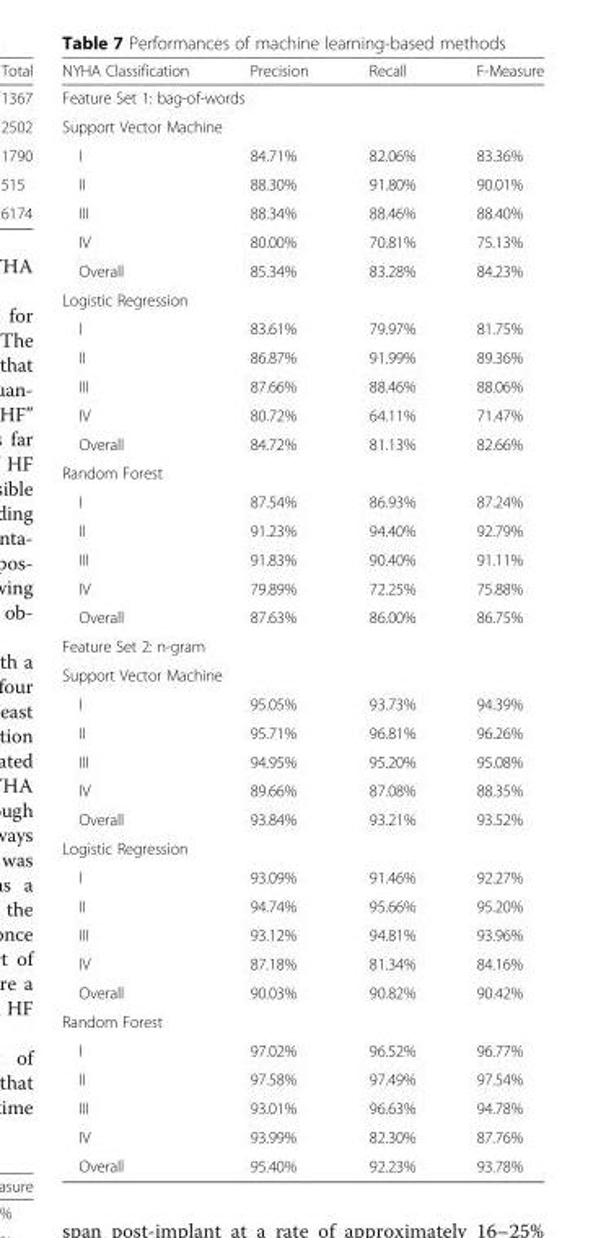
<table><thead><tr><td>NYHA Classification</td><td>Precision</td><td>Recall</td><td>F-Measure</td></tr></thead><tbody><tr><td colspan="4">Feature Set 1: bag-of-words</td></tr><tr><td colspan="4">Support Vector Machine</td></tr><tr><td>I</td><td>84.71%</td><td>82.06%</td><td>83.36%</td></tr><tr><td>II</td><td>88.30%</td><td>91.80%</td><td>90.01%</td></tr><tr><td>III</td><td>88.34%</td><td>88.46%</td><td>88.40%</td></tr><tr><td>IV</td><td>80.00%</td><td>70.81%</td><td>75.13%</td></tr><tr><td>Overall</td><td>85.34%</td><td>83.28%</td><td>84.23%</td></tr><tr><td colspan="4">Logistic Regression</td></tr><tr><td>I</td><td>83.61%</td><td>79.97%</td><td>81.75%</td></tr><tr><td>II</td><td>86.87%</td><td>91.99%</td><td>89.36%</td></tr><tr><td>III</td><td>87.66%</td><td>88.46%</td><td>88.06%</td></tr><tr><td>IV</td><td>80.72%</td><td>64.11%</td><td>71.47%</td></tr><tr><td>Overall</td><td>84.72%</td><td>81.13%</td><td>82.66%</td></tr><tr><td colspan="4">Random Forest</td></tr><tr><td>I</td><td>87.54%</td><td>86.93%</td><td>87.24%</td></tr><tr><td>II</td><td>91.23%</td><td>94.40%</td><td>92.79%</td></tr><tr><td>III</td><td>91.83%</td><td>90.40%</td><td>91.11%</td></tr><tr><td>IV</td><td>79.89%</td><td>72.25%</td><td>75.88%</td></tr><tr><td>Overall</td><td>87.63%</td><td>86.00%</td><td>86.75%</td></tr><tr><td colspan="4">Feature Set 2: n-gram</td></tr><tr><td colspan="4">Support Vector Machine</td></tr><tr><td>I</td><td>95.05%</td><td>93.73%</td><td>94.39%</td></tr><tr><td>II</td><td>95.71%</td><td>96.81%</td><td>96.26%</td></tr><tr><td>III</td><td>94.95%</td><td>95.20%</td><td>95.08%</td></tr><tr><td>IV</td><td>89.66%</td><td>87.08%</td><td>88.35%</td></tr><tr><td>Overall</td><td>93.84%</td><td>93.21%</td><td>93.52%</td></tr><tr><td colspan="4">Logistic Regression</td></tr><tr><td>I</td><td>93.09%</td><td>91.46%</td><td>92.27%</td></tr><tr><td>II</td><td>94.74%</td><td>95.66%</td><td>95.20%</td></tr><tr><td>III</td><td>93.12%</td><td>94.81%</td><td>93.96%</td></tr><tr><td>IV</td><td>87.18%</td><td>81.34%</td><td>84.16%</td></tr><tr><td>Overall</td><td>90.03%</td><td>90.82%</td><td>90.42%</td></tr><tr><td colspan="4">Random Forest</td></tr><tr><td>I</td><td>97.02%</td><td>96.52%</td><td>96.77%</td></tr><tr><td>II</td><td>97.58%</td><td>97.49%</td><td>97.54%</td></tr><tr><td>III</td><td>93.01%</td><td>96.63%</td><td>94.78%</td></tr><tr><td>IV</td><td>93.99%</td><td>82.30%</td><td>87.76%</td></tr><tr><td>Overall</td><td>95.40%</td><td>92.23%</td><td>93.78%</td></tr></tbody></table>